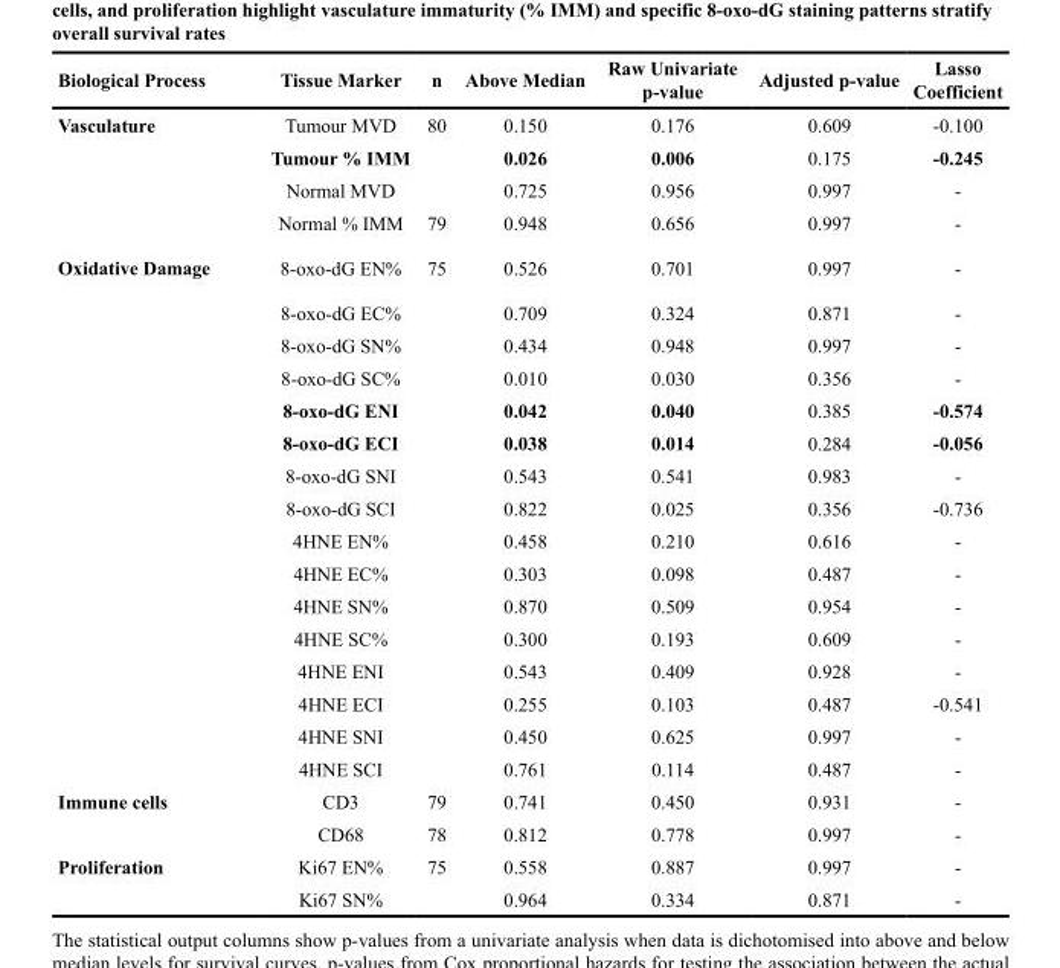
<table><thead><tr><td>Biological Process</td><td>Tissue Marker</td><td>n</td><td>Above Median</td><td>Raw Univariate p-value</td><td>Adjusted p-value</td><td>Lasso Coefficient</td></tr></thead><tbody><tr><td rowspan="4">Vasculature</td><td>Tumour MVD</td><td>80</td><td>0.150</td><td>0.176</td><td>0.609</td><td>-0.100</td></tr><tr><td>Tumour % IMM</td><td></td><td>0.026</td><td>0.006</td><td>0.175</td><td>-0.245</td></tr><tr><td>Normal MVD</td><td></td><td>0.725</td><td>0.956</td><td>0.997</td><td>-</td></tr><tr><td>Normal % IMM</td><td>79</td><td>0.948</td><td>0.656</td><td>0.997</td><td>-</td></tr><tr><td rowspan="16">Oxidative Damage</td><td>8-oxo-dG EN%</td><td>75</td><td>0.526</td><td>0.701</td><td>0.997</td><td>-</td></tr><tr><td>8-oxo-dG EC%</td><td></td><td>0.709</td><td>0.324</td><td>0.871</td><td>-</td></tr><tr><td>8-oxo-dG SN%</td><td></td><td>0.434</td><td>0.948</td><td>0.997</td><td>-</td></tr><tr><td>8-oxo-dG SC%</td><td></td><td>0.010</td><td>0.030</td><td>0.356</td><td>-</td></tr><tr><td>8-oxo-dG ENI</td><td></td><td>0.042</td><td>0.040</td><td>0.385</td><td>-0.574</td></tr><tr><td>8-oxo-dG ECI</td><td></td><td>0.038</td><td>0.014</td><td>0.284</td><td>-0.056</td></tr><tr><td>8-oxo-dG SNI</td><td></td><td>0.543</td><td>0.541</td><td>0.983</td><td>-</td></tr><tr><td>8-oxo-dG SCI</td><td></td><td>0.822</td><td>0.025</td><td>0.356</td><td>-0.736</td></tr><tr><td>4HNE EN%</td><td></td><td>0.458</td><td>0.210</td><td>0.616</td><td>-</td></tr><tr><td>4HNE EC%</td><td></td><td>0.303</td><td>0.098</td><td>0.487</td><td>-</td></tr><tr><td>4HNE SN%</td><td></td><td>0.870</td><td>0.509</td><td>0.954</td><td>-</td></tr><tr><td>4HNE SC%</td><td></td><td>0.300</td><td>0.193</td><td>0.609</td><td>-</td></tr><tr><td>4HNE ENI</td><td></td><td>0.543</td><td>0.409</td><td>0.928</td><td>-</td></tr><tr><td>4HNE ECI</td><td></td><td>0.255</td><td>0.103</td><td>0.487</td><td>-0.541</td></tr><tr><td>4HNE SNI</td><td></td><td>0.450</td><td>0.625</td><td>0.997</td><td>-</td></tr><tr><td>4HNE SCI</td><td></td><td>0.761</td><td>0.114</td><td>0.487</td><td>-</td></tr><tr><td rowspan="2">Immune cells</td><td>CD3</td><td>79</td><td>0.741</td><td>0.450</td><td>0.931</td><td>-</td></tr><tr><td>CD68</td><td>78</td><td>0.812</td><td>0.778</td><td>0.997</td><td>-</td></tr><tr><td rowspan="2">Proliferation</td><td>Ki67 EN%</td><td>75</td><td>0.558</td><td>0.887</td><td>0.997</td><td>-</td></tr><tr><td>Ki67 SN%</td><td></td><td>0.964</td><td>0.334</td><td>0.871</td><td>-</td></tr></tbody></table>